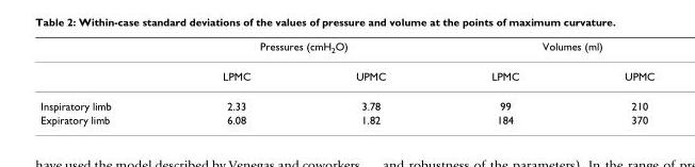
<table><thead><tr><td rowspan="2"></td><td colspan="2">Pressures (cmH<sub>2</sub>O)</td><td colspan="2">Volumes (ml)</td></tr><tr><td>LPMC</td><td>UPMC</td><td>LPMC</td><td>UPMC</td></tr></thead><tbody><tr><td>Inspiratory limb</td><td>2.33</td><td>3.78</td><td>99</td><td>210</td></tr><tr><td>Expiratory limb</td><td>6.08</td><td>1.82</td><td>184</td><td>370</td></tr></tbody></table>